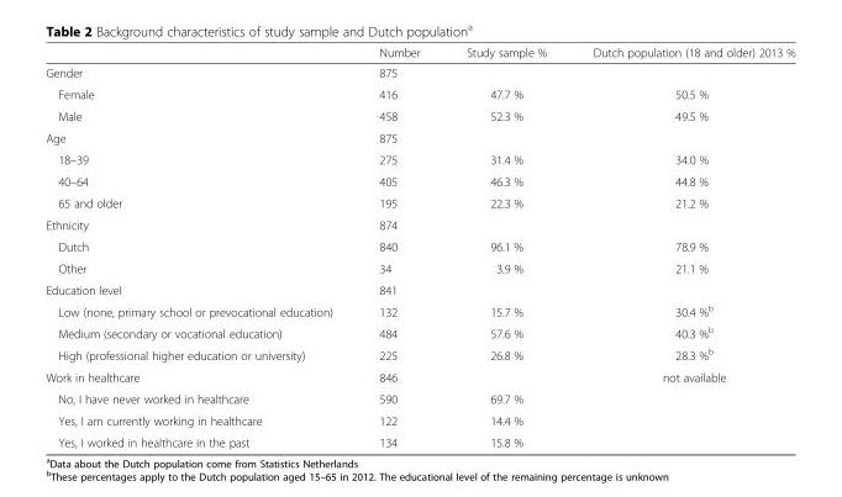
<table><thead><tr><td></td><td>Number</td><td>Study sample %</td><td>Dutch population (18 and older) 2013 %</td></tr></thead><tbody><tr><td>Gender</td><td>875</td><td></td><td></td></tr><tr><td>Female</td><td>416</td><td>47.7 %</td><td>50.5 %</td></tr><tr><td>Male</td><td>458</td><td>52.3 %</td><td>49.5 %</td></tr><tr><td>Age</td><td>875</td><td></td><td></td></tr><tr><td>18–39</td><td>275</td><td>31.4 %</td><td>34.0 %</td></tr><tr><td>40–64</td><td>405</td><td>46.3 %</td><td>44.8 %</td></tr><tr><td>65 and older</td><td>195</td><td>22.3 %</td><td>21.2 %</td></tr><tr><td>Ethnicity</td><td>874</td><td></td><td></td></tr><tr><td>Dutch</td><td>840</td><td>96.1 %</td><td>78.9 %</td></tr><tr><td>Other</td><td>34</td><td>3.9 %</td><td>21.1 %</td></tr><tr><td>Education level</td><td>841</td><td></td><td></td></tr><tr><td>Low (none, primary school or prevocational education)</td><td>132</td><td>15.7 %</td><td>30.4 %<sup>b</sup></td></tr><tr><td>Medium (secondary or vocational education)</td><td>484</td><td>57.6 %</td><td>40.3 %<sup>b</sup></td></tr><tr><td>High (professional higher education or university)</td><td>225</td><td>26.8 %</td><td>28.3 %<sup>b</sup></td></tr><tr><td>Work in healthcare</td><td>846</td><td></td><td>not available</td></tr><tr><td>No, I have never worked in healthcare</td><td>590</td><td>69.7 %</td><td></td></tr><tr><td>Yes, I am currently working in healthcare</td><td>122</td><td>14.4 %</td><td></td></tr><tr><td>Yes, I worked in healthcare in the past</td><td>134</td><td>15.8 %</td><td></td></tr></tbody></table>